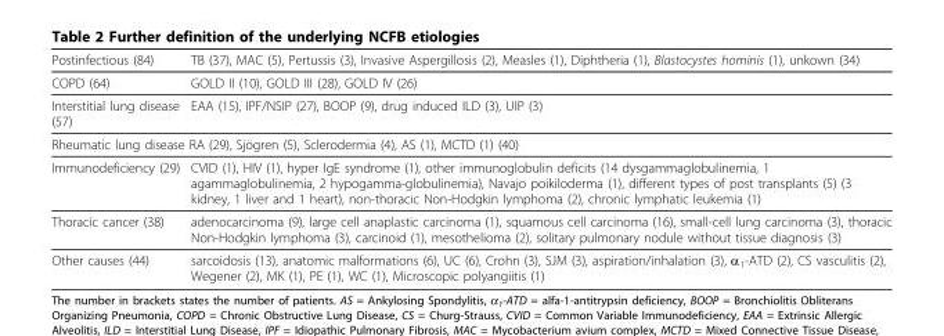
<table><thead><tr><td>Postinfectious (84)</td><td>TB (37), MAC (5), Pertussis (3), Invasive Aspergillosis (2), Measles (1), Diphtheria (1), Blastocystes hominis (1), unkown (34)</td></tr></thead><tbody><tr><td>COPD (64)</td><td>GOLD II (10), GOLD III (28), GOLD IV (26)</td></tr><tr><td>Interstitial lung disease (57)</td><td>EAA (15), IPF/NSIP (27), BOOP (9), drug induced ILD (3), UIP (3)</td></tr><tr><td colspan="2">Rheumatic lung disease RA (29), Sjögren (5), Sclerodermia (4), AS (1), MCTD (1) (40)</td></tr><tr><td>Immunodeficiency (29)</td><td>CVID (1), HIV (1), hyper IgE syndrome (1), other immunoglobulin deficits (14 dysgammaglobulinemia, 1 agammaglobulinemia, 2 hypogamma-globulinemia), Navajo poikiloderma (1), different types of post transplants (5) (3 kidney, 1 liver and 1 heart), non-thoracic Non-Hodgkin lymphoma (2), chronic lymphatic leukemia (1)</td></tr><tr><td>Thoracic cancer (38)</td><td>adenocarcinoma (9), large cell anaplastic carcinoma (1), squamous cell carcinoma (16), small-cell lung carcinoma (3), thoracic Non-Hodgkin lymphoma (3), carcinoid (1), mesothelioma (2), solitary pulmonary nodule without tissue diagnosis (3)</td></tr><tr><td>Other causes (44)</td><td>sarcoidosis (13), anatomic malformations (6), UC (6), Crohn (3), SJM (3), aspiration/inhalation (3), α<sub>1</sub>-ATD (2), CS vasculitis (2), Wegener (2), MK (1), PE (1), WC (1), Microscopic polyangiitis (1)</td></tr></tbody></table>